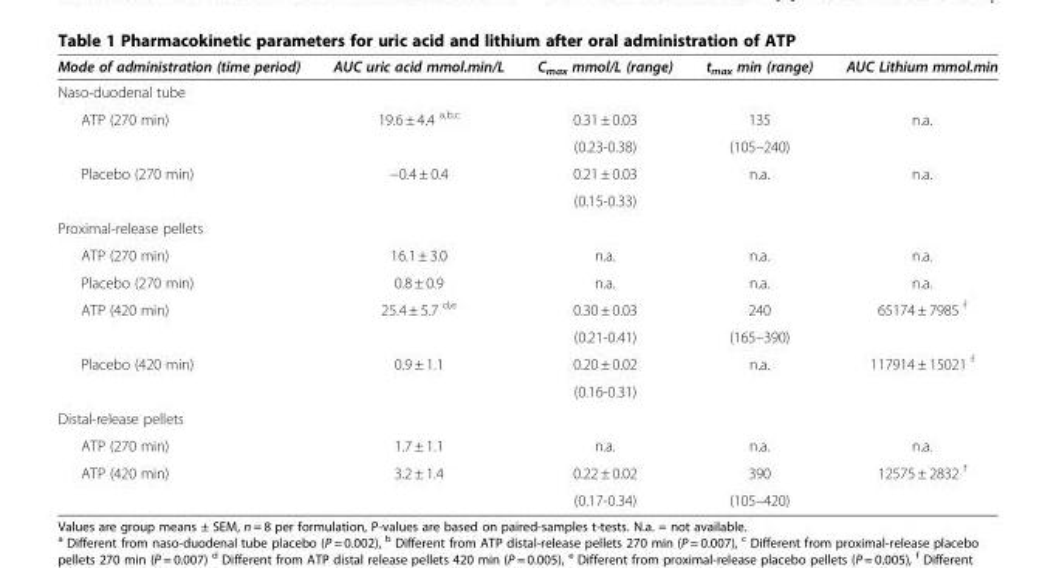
<table><thead><tr><td>Mode of administration (time period)</td><td>AUC uric acid mmol.min/L</td><td>C<sub>max</sub> mmol/L (range)</td><td>t<sub>max</sub> min (range)</td><td>AUC Lithium mmol.min</td></tr></thead><tbody><tr><td colspan="5">Naso-duodenal tube</td></tr><tr><td rowspan="2">ATP (270 min)</td><td>19.6 ± 4.4 <sup>a,b,c</sup></td><td>0.31 ± 0.03</td><td>135</td><td>n.a.</td></tr><tr><td></td><td>(0.23-0.38)</td><td>(105–240)</td><td></td></tr><tr><td rowspan="2">Placebo (270 min)</td><td>−0.4 ± 0.4</td><td>0.21 ± 0.03</td><td>n.a.</td><td>n.a.</td></tr><tr><td></td><td>(0.15-0.33)</td><td></td><td></td></tr><tr><td colspan="5">Proximal-release pellets</td></tr><tr><td>ATP (270 min)</td><td>16.1 ± 3.0</td><td>n.a.</td><td>n.a.</td><td>n.a.</td></tr><tr><td>Placebo (270 min)</td><td>0.8 ± 0.9</td><td>n.a.</td><td>n.a.</td><td>n.a.</td></tr><tr><td rowspan="2">ATP (420 min)</td><td>25.4 ± 5.7 <sup>d,e</sup></td><td>0.30 ± 0.03</td><td>240</td><td>65174 ± 7985 <sup>f</sup></td></tr><tr><td></td><td>(0.21-0.41)</td><td>(165–390)</td><td></td></tr><tr><td rowspan="2">Placebo (420 min)</td><td>0.9 ± 1.1</td><td>0.20 ± 0.02</td><td>n.a.</td><td>117914 ± 15021 <sup>f</sup></td></tr><tr><td></td><td>(0.16-0.31)</td><td></td><td></td></tr><tr><td colspan="5">Distal-release pellets</td></tr><tr><td>ATP (270 min)</td><td>1.7 ± 1.1</td><td>n.a.</td><td>n.a.</td><td>n.a.</td></tr><tr><td rowspan="2">ATP (420 min)</td><td>3.2 ± 1.4</td><td>0.22 ± 0.02</td><td>390</td><td>12575 ± 2832 <sup>f</sup></td></tr><tr><td></td><td>(0.17-0.34)</td><td>(105–420)</td><td></td></tr></tbody></table>